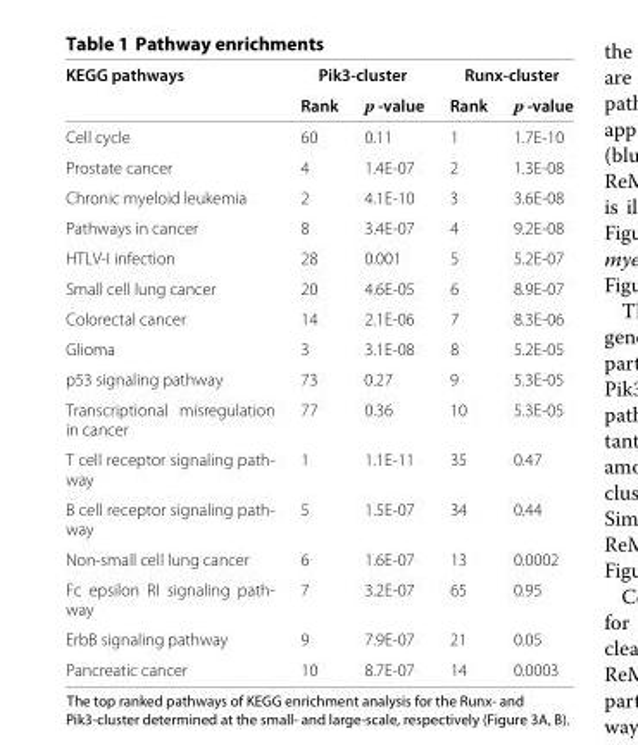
<table><thead><tr><td rowspan="2">KEGG pathways</td><td colspan="2">Pik3-cluster</td><td colspan="2">Runx-cluster</td></tr><tr><td>Rank</td><td>p -value</td><td>Rank</td><td>p -value</td></tr></thead><tbody><tr><td>Cell cycle</td><td>60</td><td>0.11</td><td>1</td><td>1.7E-10</td></tr><tr><td>Prostate cancer</td><td>4</td><td>1.4E-07</td><td>2</td><td>1.3E-08</td></tr><tr><td>Chronic myeloid leukemia</td><td>2</td><td>4.1E-10</td><td>3</td><td>3.6E-08</td></tr><tr><td>Pathways in cancer</td><td>8</td><td>3.4E-07</td><td>4</td><td>9.2E-08</td></tr><tr><td>HTLV-I infection</td><td>28</td><td>0.001</td><td>5</td><td>5.2E-07</td></tr><tr><td>Small cell lung cancer</td><td>20</td><td>4.6E-05</td><td>6</td><td>8.9E-07</td></tr><tr><td>Colorectal cancer</td><td>14</td><td>2.1E-06</td><td>7</td><td>8.3E-06</td></tr><tr><td>Glioma</td><td>3</td><td>3.1E-08</td><td>8</td><td>5.2E-05</td></tr><tr><td>p53 signaling pathway</td><td>73</td><td>0.27</td><td>9</td><td>5.3E-05</td></tr><tr><td>Transcriptional misregulation in cancer</td><td>77</td><td>0.36</td><td>10</td><td>5.3E-05</td></tr><tr><td>T cell receptor signaling path- way</td><td>1</td><td>1.1E-11</td><td>35</td><td>0.47</td></tr><tr><td>B cell receptor signaling path- way</td><td>5</td><td>1.5E-07</td><td>34</td><td>0.44</td></tr><tr><td>Non-small cell lung cancer</td><td>6</td><td>1.6E-07</td><td>13</td><td>0.0002</td></tr><tr><td>Fc epsilon RI signaling path- way</td><td>7</td><td>3.2E-07</td><td>65</td><td>0.95</td></tr><tr><td>ErbB signaling pathway</td><td>9</td><td>7.9E-07</td><td>21</td><td>0.05</td></tr><tr><td>Pancreatic cancer</td><td>10</td><td>8.7E-07</td><td>14</td><td>0.0003</td></tr></tbody></table>